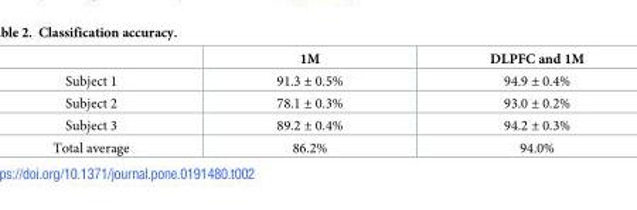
<table><thead><tr><td></td><td>1M</td><td>DLPFC and 1M</td></tr></thead><tbody><tr><td>Subject 1</td><td>91.3 ± 0.5%</td><td>94.9 ± 0.4%</td></tr><tr><td>Subject 2</td><td>78.1 ± 0.3%</td><td>93.0 ± 0.2%</td></tr><tr><td>Subject 3</td><td>89.2 ± 0.4%</td><td>94.2 ± 0.3%</td></tr><tr><td>Total average</td><td>86.2%</td><td>94.0%</td></tr></tbody></table>